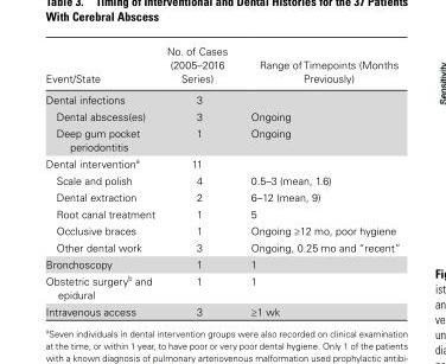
<table><thead><tr><td>Event/State</td><td>No. of Cases (2005–2016 Series)</td><td>Range of Timepoints (Months Previously)</td></tr></thead><tbody><tr><td>Dental infections</td><td>3</td><td></td></tr><tr><td>Dental abscess(es)</td><td>3</td><td>Ongoing</td></tr><tr><td>Deep gum pocket periodontitis</td><td>1</td><td>Ongoing</td></tr><tr><td>Dental intervention<sup>a</sup></td><td>11</td><td></td></tr><tr><td>Scale and polish</td><td>4</td><td>0.5–3 (mean, 1.6)</td></tr><tr><td>Dental extraction</td><td>2</td><td>6–12 (mean, 9)</td></tr><tr><td>Root canal treatment</td><td>1</td><td>5</td></tr><tr><td>Occlusive braces</td><td>1</td><td>Ongoing ≥12 mo, poor hygiene</td></tr><tr><td>Other dental work</td><td>3</td><td>Ongoing, 0.25 mo and “recent”</td></tr><tr><td>Bronchoscopy</td><td>1</td><td>1</td></tr><tr><td>Obstetric surgery<sup>b</sup> and epidural</td><td>1</td><td>1</td></tr><tr><td>Intravenous access</td><td>3</td><td>≥1 wk</td></tr></tbody></table>